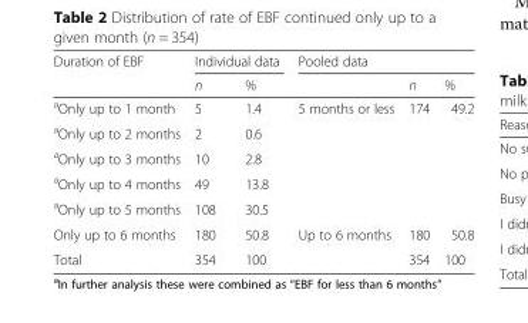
<table><thead><tr><td rowspan="2">Duration of EBF</td><td colspan="2">Individual data</td><td colspan="3">Pooled data</td></tr><tr><td>n</td><td>%</td><td></td><td>n</td><td>%</td></tr></thead><tbody><tr><td><sup>a</sup>Only up to 1 month</td><td>5</td><td>1.4</td><td rowspan="5">5 months or less</td><td rowspan="5">174</td><td rowspan="5">49.2</td></tr><tr><td><sup>a</sup>Only up to 2 months</td><td>2</td><td>0.6</td></tr><tr><td><sup>a</sup>Only up to 3 months</td><td>10</td><td>2.8</td></tr><tr><td><sup>a</sup>Only up to 4 months</td><td>49</td><td>13.8</td></tr><tr><td><sup>a</sup>Only up to 5 months</td><td>108</td><td>30.5</td></tr><tr><td>Only up to 6 months</td><td>180</td><td>50.8</td><td>Up to 6 months</td><td>180</td><td>50.8</td></tr><tr><td>Total</td><td>354</td><td>100</td><td></td><td>354</td><td>100</td></tr></tbody></table>